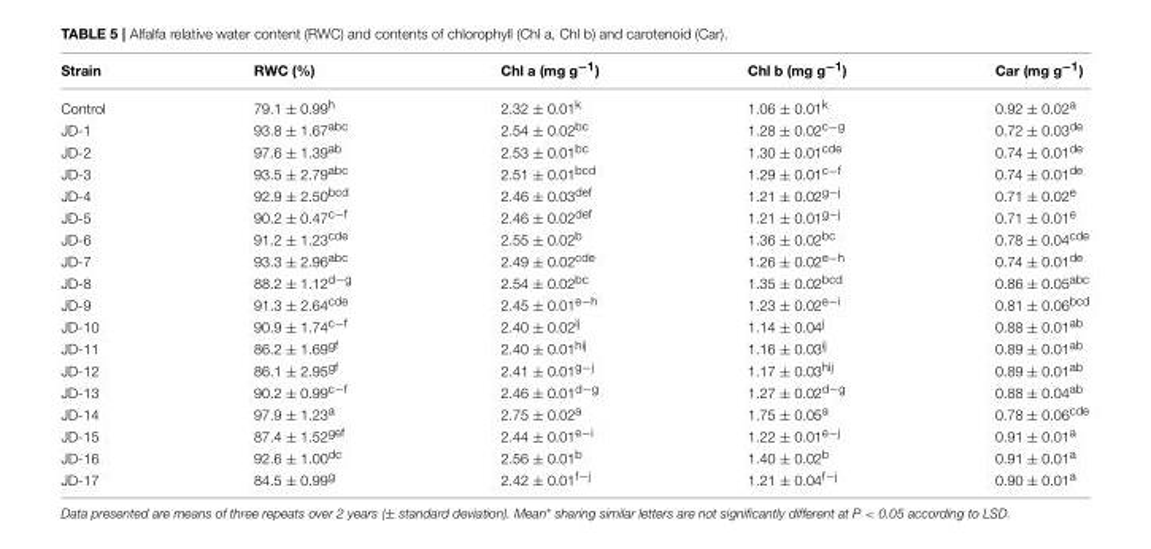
<table><thead><tr><td>Strain</td><td>RWC (%)</td><td>Chl a (mg g<sup>−1</sup>)</td><td>Chl b (mg g<sup>−1</sup>)</td><td>Car (mg g<sup>−1</sup>)</td></tr></thead><tbody><tr><td>Control</td><td>79.1 ± 0.99<sup>h</sup></td><td>2.32 ± 0.01<sup>k</sup></td><td>1.06 ± 0.01<sup>k</sup></td><td>0.92 ± 0.02<sup>a</sup></td></tr><tr><td>JD-1</td><td>93.8 ± 1.67<sup>abc</sup></td><td>2.54 ± 0.02<sup>bc</sup></td><td>1.28 ± 0.02<sup>c−g</sup></td><td>0.72 ± 0.03<sup>de</sup></td></tr><tr><td>JD-2</td><td>97.6 ± 1.39<sup>ab</sup></td><td>2.53 ± 0.01<sup>bc</sup></td><td>1.30 ± 0.01<sup>cde</sup></td><td>0.74 ± 0.01<sup>de</sup></td></tr><tr><td>JD-3</td><td>93.5 ± 2.79<sup>abc</sup></td><td>2.51 ± 0.01<sup>bcd</sup></td><td>1.29 ± 0.01<sup>c−f</sup></td><td>0.74 ± 0.01<sup>de</sup></td></tr><tr><td>JD-4</td><td>92.9 ± 2.50<sup>bcd</sup></td><td>2.46 ± 0.03<sup>def</sup></td><td>1.21 ± 0.02<sup>g−j</sup></td><td>0.71 ± 0.02<sup>e</sup></td></tr><tr><td>JD-5</td><td>90.2 ± 0.47<sup>c−f</sup></td><td>2.46 ± 0.02<sup>def</sup></td><td>1.21 ± 0.01<sup>g−j</sup></td><td>0.71 ± 0.01<sup>e</sup></td></tr><tr><td>JD-6</td><td>91.2 ± 1.23<sup>cde</sup></td><td>2.55 ± 0.02<sup>b</sup></td><td>1.36 ± 0.02<sup>bc</sup></td><td>0.78 ± 0.04<sup>cde</sup></td></tr><tr><td>JD-7</td><td>93.3 ± 2.96<sup>abc</sup></td><td>2.49 ± 0.02<sup>cde</sup></td><td>1.26 ± 0.02<sup>e−h</sup></td><td>0.74 ± 0.01<sup>de</sup></td></tr><tr><td>JD-8</td><td>88.2 ± 1.12<sup>d−g</sup></td><td>2.54 ± 0.02<sup>bc</sup></td><td>1.35 ± 0.02<sup>bcd</sup></td><td>0.86 ± 0.05<sup>abc</sup></td></tr><tr><td>JD-9</td><td>91.3 ± 2.64<sup>cde</sup></td><td>2.45 ± 0.01<sup>e−h</sup></td><td>1.23 ± 0.02<sup>e−i</sup></td><td>0.81 ± 0.06<sup>bcd</sup></td></tr><tr><td>JD-10</td><td>90.9 ± 1.74<sup>c−f</sup></td><td>2.40 ± 0.02<sup>ij</sup></td><td>1.14 ± 0.04<sup>j</sup></td><td>0.88 ± 0.01<sup>ab</sup></td></tr><tr><td>JD-11</td><td>86.2 ± 1.69<sup>gf</sup></td><td>2.40 ± 0.01<sup>hij</sup></td><td>1.16 ± 0.03<sup>ij</sup></td><td>0.89 ± 0.01<sup>ab</sup></td></tr><tr><td>JD-12</td><td>86.1 ± 2.95<sup>gf</sup></td><td>2.41 ± 0.01<sup>g−j</sup></td><td>1.17 ± 0.03<sup>hij</sup></td><td>0.89 ± 0.01<sup>ab</sup></td></tr><tr><td>JD-13</td><td>90.2 ± 0.99<sup>c−f</sup></td><td>2.46 ± 0.01<sup>d−g</sup></td><td>1.27 ± 0.02<sup>d−g</sup></td><td>0.88 ± 0.04<sup>ab</sup></td></tr><tr><td>JD-14</td><td>97.9 ± 1.23<sup>a</sup></td><td>2.75 ± 0.02<sup>a</sup></td><td>1.75 ± 0.05<sup>a</sup></td><td>0.78 ± 0.06<sup>cde</sup></td></tr><tr><td>JD-15</td><td>87.4 ± 1.52<sup>gef</sup></td><td>2.44 ± 0.01<sup>e−i</sup></td><td>1.22 ± 0.01<sup>e−j</sup></td><td>0.91 ± 0.01<sup>a</sup></td></tr><tr><td>JD-16</td><td>92.6 ± 1.00<sup>dc</sup></td><td>2.56 ± 0.01<sup>b</sup></td><td>1.40 ± 0.02<sup>b</sup></td><td>0.91 ± 0.01<sup>a</sup></td></tr><tr><td>JD-17</td><td>84.5 ± 0.99<sup>g</sup></td><td>2.42 ± 0.01<sup>f−j</sup></td><td>1.21 ± 0.04<sup>f−j</sup></td><td>0.90 ± 0.01<sup>a</sup></td></tr></tbody></table>